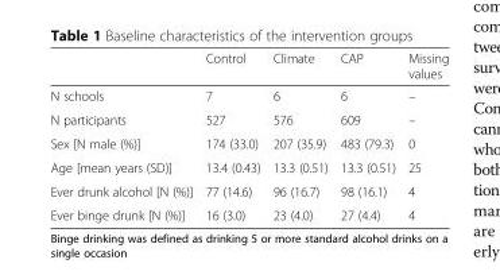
<table><thead><tr><td></td><td>Control</td><td>Climate</td><td>CAP</td><td>Missing values</td></tr></thead><tbody><tr><td>N schools</td><td>7</td><td>6</td><td>6</td><td>–</td></tr><tr><td>N participants</td><td>527</td><td>576</td><td>609</td><td>–</td></tr><tr><td>Sex [N male (%)]</td><td>174 (33.0)</td><td>207 (35.9)</td><td>483 (79.3)</td><td>0</td></tr><tr><td>Age [mean years (SD)]</td><td>13.4 (0.43)</td><td>13.3 (0.51)</td><td>13.3 (0.51)</td><td>25</td></tr><tr><td>Ever drunk alcohol [N (%)]</td><td>77 (14.6)</td><td>96 (16.7)</td><td>98 (16.1)</td><td>4</td></tr><tr><td>Ever binge drunk [N (%)]</td><td>16 (3.0)</td><td>23 (4.0)</td><td>27 (4.4)</td><td>4</td></tr></tbody></table>